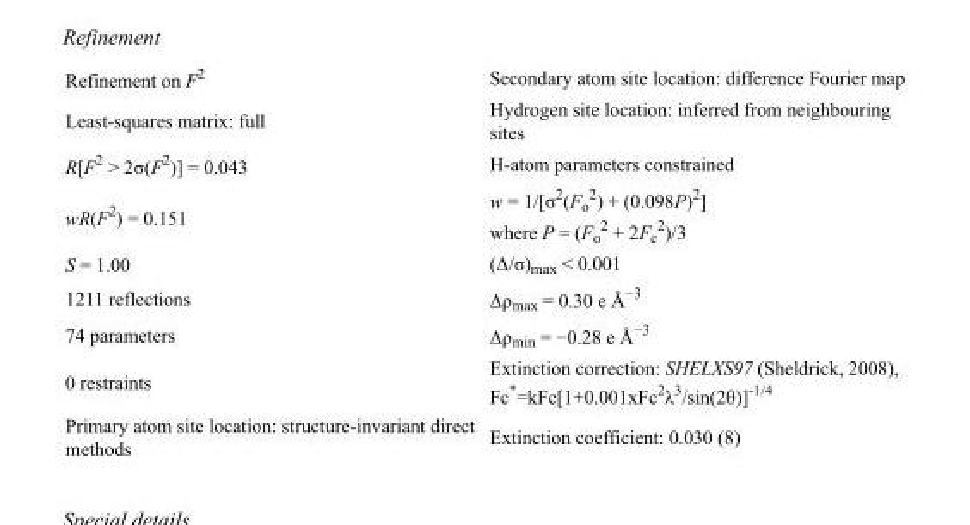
<table><tbody><tr><td>Refinement on F<sup>2</sup></td><td>Secondary atom site location: difference Fourier map</td></tr><tr><td>Least-squares matrix: full</td><td>Hydrogen site location: inferred from neighbouring sites</td></tr><tr><td>R[F<sup>2</sup> &gt; 2σ(F<sup>2</sup>)] = 0.043</td><td>H-atom parameters constrained</td></tr><tr><td>wR(F<sup>2</sup>) = 0.151</td><td>w = 1/[σ<sup>2</sup>(F<sub>o</sub> <sup>2</sup>) + (0.098P)<sup>2</sup>] where P = (F<sub>o</sub> <sup>2</sup> + 2F<sub>c</sub> <sup>2</sup>)/3</td></tr><tr><td>S = 1.00</td><td>(Δ/σ)<sub>max</sub> &lt; 0.001</td></tr><tr><td>1211 reflections</td><td>Δρ<sub>max</sub> = 0.30 e Å<sup>−3</sup></td></tr><tr><td>74 parameters</td><td>Δρ<sub>min</sub> = −0.28 e Å<sup>−3</sup></td></tr><tr><td>0 restraints</td><td>Extinction correction: SHELXS97 (Sheldrick, 2008), Fc*=kFc[1+0.001xFc<sup>2</sup>λ<sup>3</sup>/sin(2θ)]<sup>-1/4</sup></td></tr><tr><td>Primary atom site location: structure-invariant direct methods</td><td>Extinction coefficient: 0.030 (8)</td></tr></tbody></table>